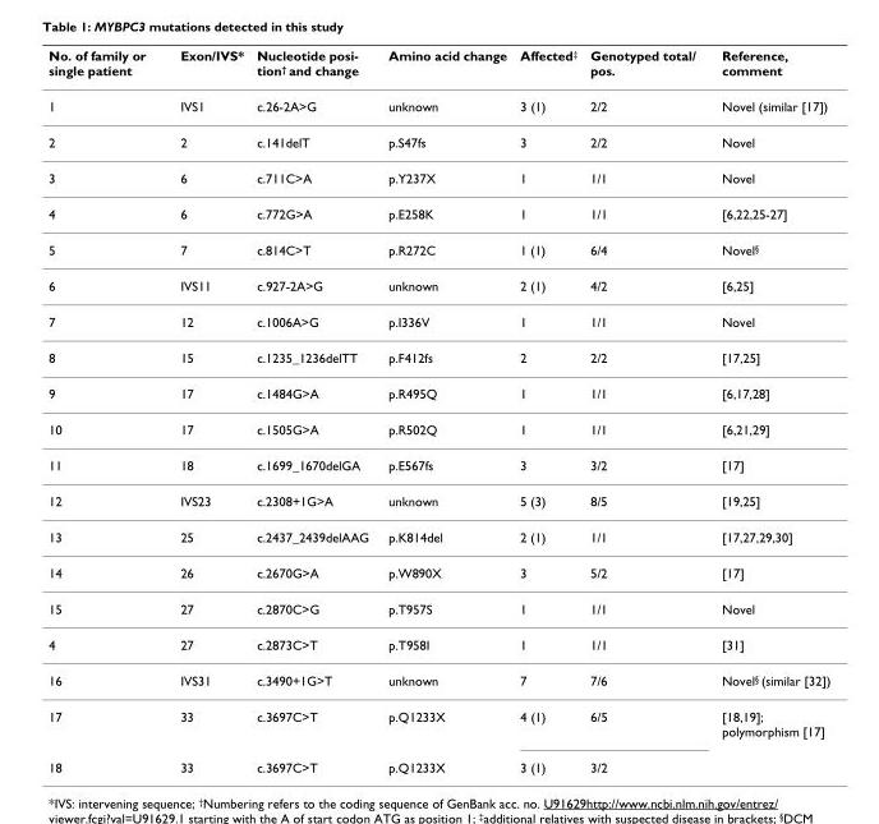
<table><thead><tr><td>No. of family or single patient</td><td>Exon/IVS*</td><td>Nucleotide posi- tion† and change</td><td>Amino acid change</td><td>Affected‡</td><td>Genotyped total/ pos.</td><td>Reference, comment</td></tr></thead><tbody><tr><td>1</td><td>IVS1</td><td>c.26-2A&gt;G</td><td>unknown</td><td>3 (1)</td><td>2/2</td><td>Novel (similar [17])</td></tr><tr><td>2</td><td>2</td><td>c.141delT</td><td>p.S47fs</td><td>3</td><td>2/2</td><td>Novel</td></tr><tr><td>3</td><td>6</td><td>c.711C&gt;A</td><td>p.Y237X</td><td>1</td><td>1/1</td><td>Novel</td></tr><tr><td>4</td><td>6</td><td>c.772G&gt;A</td><td>p.E258K</td><td>1</td><td>1/1</td><td>[6,22,25-27]</td></tr><tr><td>5</td><td>7</td><td>c.814C&gt;T</td><td>p.R272C</td><td>1 (1)</td><td>6/4</td><td>Novel§</td></tr><tr><td>6</td><td>IVS11</td><td>c.927-2A&gt;G</td><td>unknown</td><td>2 (1)</td><td>4/2</td><td>[6,25]</td></tr><tr><td>7</td><td>12</td><td>c.1006A&gt;G</td><td>p.I336V</td><td>1</td><td>1/1</td><td>Novel</td></tr><tr><td>8</td><td>15</td><td>c.1235_1236delTT</td><td>p.F412fs</td><td>2</td><td>2/2</td><td>[17,25]</td></tr><tr><td>9</td><td>17</td><td>c.1484G&gt;A</td><td>p.R495Q</td><td>1</td><td>1/1</td><td>[6,17,28]</td></tr><tr><td>10</td><td>17</td><td>c.1505G&gt;A</td><td>p.R502Q</td><td>1</td><td>1/1</td><td>[6,21,29]</td></tr><tr><td>11</td><td>18</td><td>c.1699_1670delGA</td><td>p.E567fs</td><td>3</td><td>3/2</td><td>[17]</td></tr><tr><td>12</td><td>IVS23</td><td>c.2308+1G&gt;A</td><td>unknown</td><td>5 (3)</td><td>8/5</td><td>[19,25]</td></tr><tr><td>13</td><td>25</td><td>c.2437_2439delAAG</td><td>p.K814del</td><td>2 (1)</td><td>1/1</td><td>[17,27,29,30]</td></tr><tr><td>14</td><td>26</td><td>c.2670G&gt;A</td><td>p.W890X</td><td>3</td><td>5/2</td><td>[17]</td></tr><tr><td>15</td><td>27</td><td>c.2870C&gt;G</td><td>p.T957S</td><td>1</td><td>1/1</td><td>Novel</td></tr><tr><td>4</td><td>27</td><td>c.2873C&gt;T</td><td>p.T958I</td><td>1</td><td>1/1</td><td>[31]</td></tr><tr><td>16</td><td>IVS31</td><td>c.3490+1G&gt;T</td><td>unknown</td><td>7</td><td>7/6</td><td>Novel§ (similar [32])</td></tr><tr><td>17</td><td>33</td><td>c.3697C&gt;T</td><td>p.Q1233X</td><td>4 (1)</td><td>6/5</td><td>[18,19]; polymorphism [17]</td></tr><tr><td>18</td><td>33</td><td>c.3697C&gt;T</td><td>p.Q1233X</td><td>3 (1)</td><td>3/2</td><td></td></tr></tbody></table>